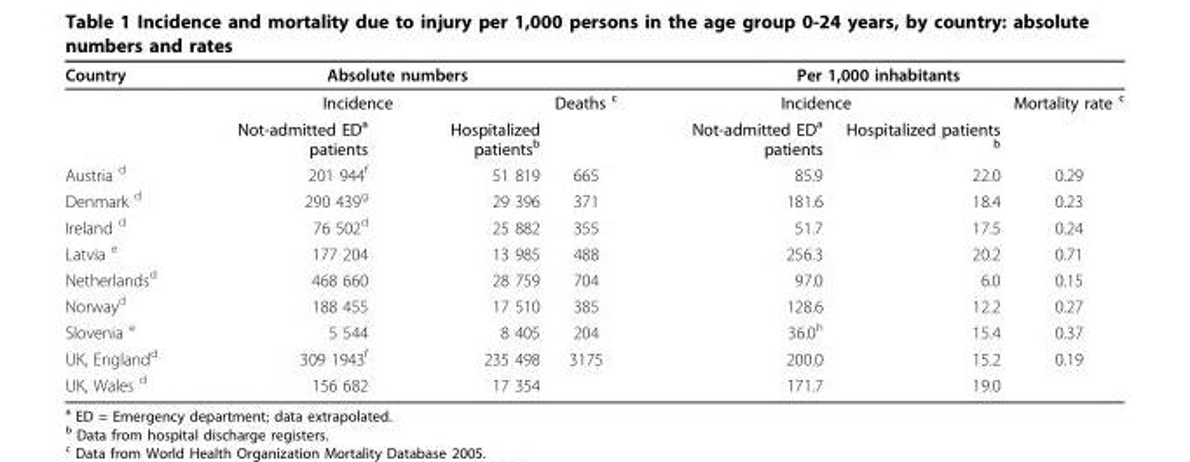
<table><thead><tr><td rowspan="3">Country</td><td colspan="3">Absolute numbers</td><td colspan="3">Per 1,000 inhabitants</td></tr><tr><td colspan="2">Incidence</td><td rowspan="2">Deaths <sup>c</sup></td><td colspan="2">Incidence</td><td rowspan="2">Mortality rate <sup>c</sup></td></tr><tr><td>Not-admitted ED<sup>a</sup> patients</td><td>Hospitalized patients<sup>b</sup></td><td>Not-admitted ED<sup>a</sup> patients</td><td>Hospitalized patients <sup>b</sup></td></tr></thead><tbody><tr><td>Austria <sup>d</sup></td><td>201 944<sup>f</sup></td><td>51 819</td><td>665</td><td>85.9</td><td>22.0</td><td>0.29</td></tr><tr><td>Denmark <sup>d</sup></td><td>290 439<sup>g</sup></td><td>29 396</td><td>371</td><td>181.6</td><td>18.4</td><td>0.23</td></tr><tr><td>Ireland <sup>d</sup></td><td>76 502<sup>d</sup></td><td>25 882</td><td>355</td><td>51.7</td><td>17.5</td><td>0.24</td></tr><tr><td>Latvia <sup>e</sup></td><td>177 204</td><td>13 985</td><td>488</td><td>256.3</td><td>20.2</td><td>0.71</td></tr><tr><td>Netherlands<sup>d</sup></td><td>468 660</td><td>28 759</td><td>704</td><td>97.0</td><td>6.0</td><td>0.15</td></tr><tr><td>Norway<sup>d</sup></td><td>188 455</td><td>17 510</td><td>385</td><td>128.6</td><td>12.2</td><td>0.27</td></tr><tr><td>Slovenia <sup>e</sup></td><td>5 544</td><td>8 405</td><td>204</td><td>36.0<sup>h</sup></td><td>15.4</td><td>0.37</td></tr><tr><td>UK, England<sup>d</sup></td><td>309 1943<sup>f</sup></td><td>235 498</td><td>3175</td><td>200.0</td><td>15.2</td><td>0.19</td></tr><tr><td>UK, Wales <sup>d</sup></td><td>156 682</td><td>17 354</td><td></td><td>171.7</td><td>19.0</td><td></td></tr></tbody></table>